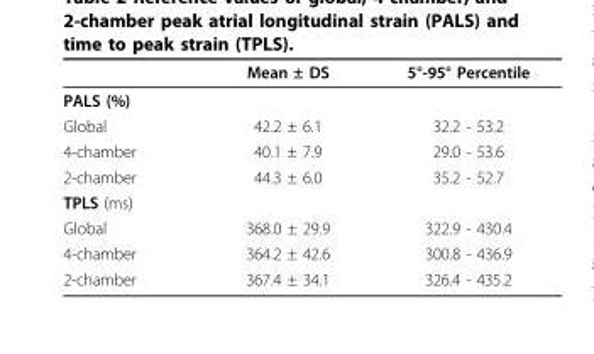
<table><thead><tr><td></td><td>Mean ± DS</td><td>5°-95° Percentile</td></tr></thead><tbody><tr><td colspan="3">PALS (%)</td></tr><tr><td>Global</td><td>42.2 ± 6.1</td><td>32.2 - 53.2</td></tr><tr><td>4-chamber</td><td>40.1 ± 7.9</td><td>29.0 - 53.6</td></tr><tr><td>2-chamber</td><td>44.3 ± 6.0</td><td>35.2 - 52.7</td></tr><tr><td colspan="3">TPLS (ms)</td></tr><tr><td>Global</td><td>368.0 ± 29.9</td><td>322.9 - 430.4</td></tr><tr><td>4-chamber</td><td>364.2 ± 42.6</td><td>300.8 - 436.9</td></tr><tr><td>2-chamber</td><td>367.4 ± 34.1</td><td>326.4 - 435.2</td></tr></tbody></table>